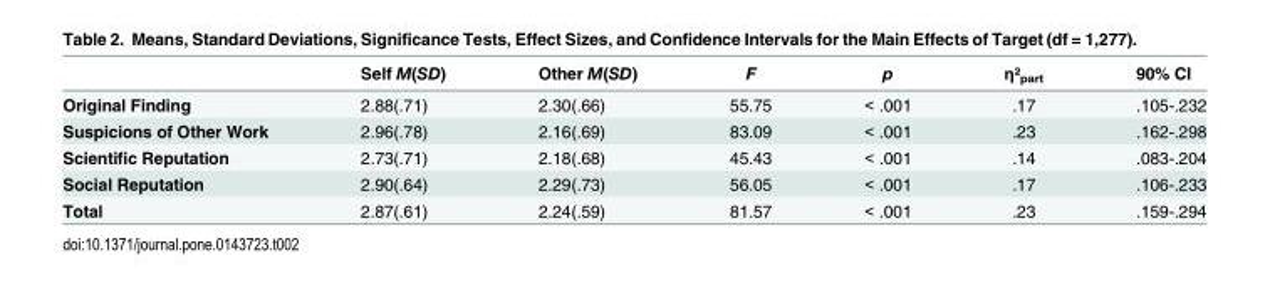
<table><thead><tr><td></td><td>Self M(SD)</td><td>Other M(SD)</td><td>F</td><td>p</td><td>η²<sub>part</sub></td><td>90% CI</td></tr></thead><tbody><tr><td>Original Finding</td><td>2.88(.71)</td><td>2.30(.66)</td><td>55.75</td><td>&lt; .001</td><td>.17</td><td>.105-.232</td></tr><tr><td>Suspicions of Other Work</td><td>2.96(.78)</td><td>2.16(.69)</td><td>83.09</td><td>&lt; .001</td><td>.23</td><td>.162-.298</td></tr><tr><td>Scientific Reputation</td><td>2.73(.71)</td><td>2.18(.68)</td><td>45.43</td><td>&lt; .001</td><td>.14</td><td>.083-.204</td></tr><tr><td>Social Reputation</td><td>2.90(.64)</td><td>2.29(.73)</td><td>56.05</td><td>&lt; .001</td><td>.17</td><td>.106-.233</td></tr><tr><td>Total</td><td>2.87(.61)</td><td>2.24(.59)</td><td>81.57</td><td>&lt; .001</td><td>.23</td><td>.159-.294</td></tr></tbody></table>